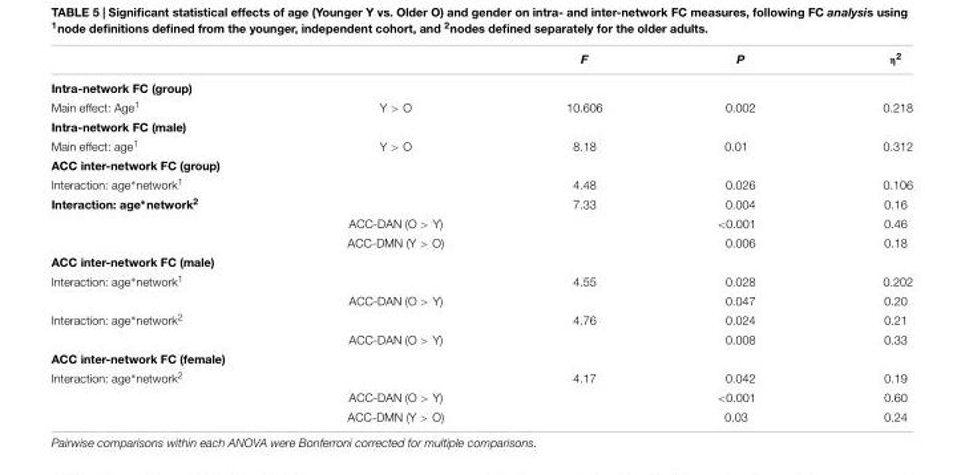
<table><thead><tr><td></td><td></td><td>F</td><td>P</td><td>η<sup>2</sup></td></tr></thead><tbody><tr><td colspan="5">Intra-network FC (group)</td></tr><tr><td>Main effect: Age<sup>1</sup></td><td>Y &gt; O</td><td>10.606</td><td>0.002</td><td>0.218</td></tr><tr><td colspan="5">Intra-network FC (male)</td></tr><tr><td>Main effect: age<sup>1</sup></td><td>Y &gt; O</td><td>8.18</td><td>0.01</td><td>0.312</td></tr><tr><td colspan="5">ACC inter-network FC (group)</td></tr><tr><td>Interaction: age∗network<sup>1</sup></td><td></td><td>4.48</td><td>0.026</td><td>0.106</td></tr><tr><td rowspan="3">Interaction: age∗network<sup>2</sup></td><td></td><td>7.33</td><td>0.004</td><td>0.16</td></tr><tr><td>ACC-DAN (O &gt; Y)</td><td></td><td>&lt;0.001</td><td>0.46</td></tr><tr><td>ACC-DMN (Y &gt; O)</td><td></td><td>0.006</td><td>0.18</td></tr><tr><td colspan="5">ACC inter-network FC (male)</td></tr><tr><td rowspan="2">Interaction: age∗network<sup>1</sup></td><td></td><td>4.55</td><td>0.028</td><td>0.202</td></tr><tr><td>ACC-DAN (O &gt; Y)</td><td></td><td>0.047</td><td>0.20</td></tr><tr><td rowspan="2">Interaction: age∗network<sup>2</sup></td><td></td><td>4.76</td><td>0.024</td><td>0.21</td></tr><tr><td>ACC-DAN (O &gt; Y)</td><td></td><td>0.008</td><td>0.33</td></tr><tr><td colspan="5">ACC inter-network FC (female)</td></tr><tr><td rowspan="3">Interaction: age∗network<sup>2</sup></td><td></td><td>4.17</td><td>0.042</td><td>0.19</td></tr><tr><td>ACC-DAN (O &gt; Y)</td><td></td><td>&lt;0.001</td><td>0.60</td></tr><tr><td>ACC-DMN (Y &gt; O)</td><td></td><td>0.03</td><td>0.24</td></tr></tbody></table>